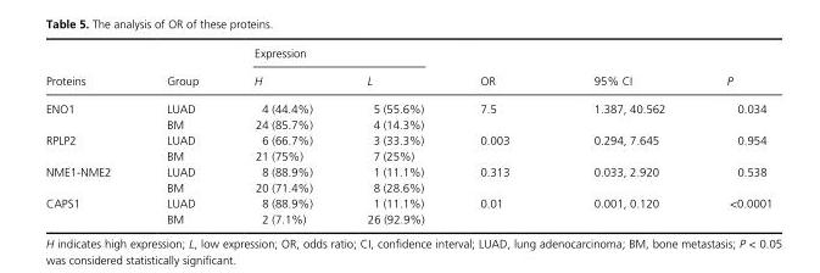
<table><thead><tr><td rowspan="2">Proteins</td><td rowspan="2">Group</td><td colspan="2">Expression</td><td rowspan="2">OR</td><td rowspan="2">95% CI</td><td rowspan="2">P</td></tr><tr><td>H</td><td>L</td></tr></thead><tbody><tr><td rowspan="2">ENO1</td><td>LUAD</td><td>4 (44.4%)</td><td>5 (55.6%)</td><td rowspan="2">7.5</td><td rowspan="2">1.387, 40.562</td><td rowspan="2">0.034</td></tr><tr><td>BM</td><td>24 (85.7%)</td><td>4 (14.3%)</td></tr><tr><td rowspan="2">RPLP2</td><td>LUAD</td><td>6 (66.7%)</td><td>3 (33.3%)</td><td rowspan="2">0.003</td><td rowspan="2">0.294, 7.645</td><td rowspan="2">0.954</td></tr><tr><td>BM</td><td>21 (75%)</td><td>7 (25%)</td></tr><tr><td rowspan="2">NME1- NME2</td><td>LUAD</td><td>8 (88.9%)</td><td>1 (11.1%)</td><td rowspan="2">0.313</td><td rowspan="2">0.033, 2.920</td><td rowspan="2">0.538</td></tr><tr><td>BM</td><td>20 (71.4%)</td><td>8 (28.6%)</td></tr><tr><td rowspan="2">CAPS1</td><td>LUAD</td><td>8 (88.9%)</td><td>1 (11.1%)</td><td rowspan="2">0.01</td><td rowspan="2">0.001, 0.120</td><td rowspan="2">&lt;0.0001</td></tr><tr><td>BM</td><td>2 (7.1%)</td><td>26 (92.9%)</td></tr></tbody></table>